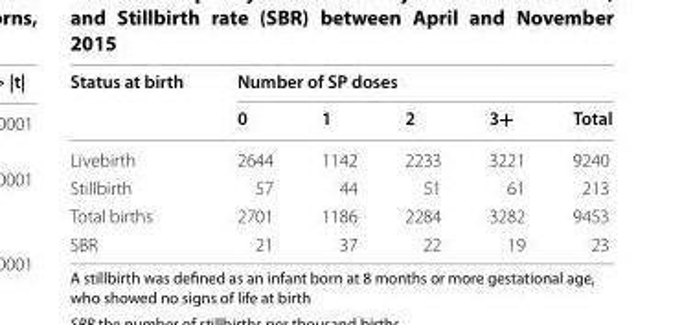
<table><thead><tr><td rowspan="2">Status at birth</td><td colspan="5">Number of SP doses</td></tr><tr><td>0</td><td>1</td><td>2</td><td>3+</td><td>Total</td></tr></thead><tbody><tr><td>Livebirth</td><td>2644</td><td>1142</td><td>2233</td><td>3221</td><td>9240</td></tr><tr><td>Stillbirth</td><td>57</td><td>44</td><td>51</td><td>61</td><td>213</td></tr><tr><td>Total births</td><td>2701</td><td>1186</td><td>2284</td><td>3282</td><td>9453</td></tr><tr><td>SBR</td><td>21</td><td>37</td><td>22</td><td>19</td><td>23</td></tr></tbody></table>